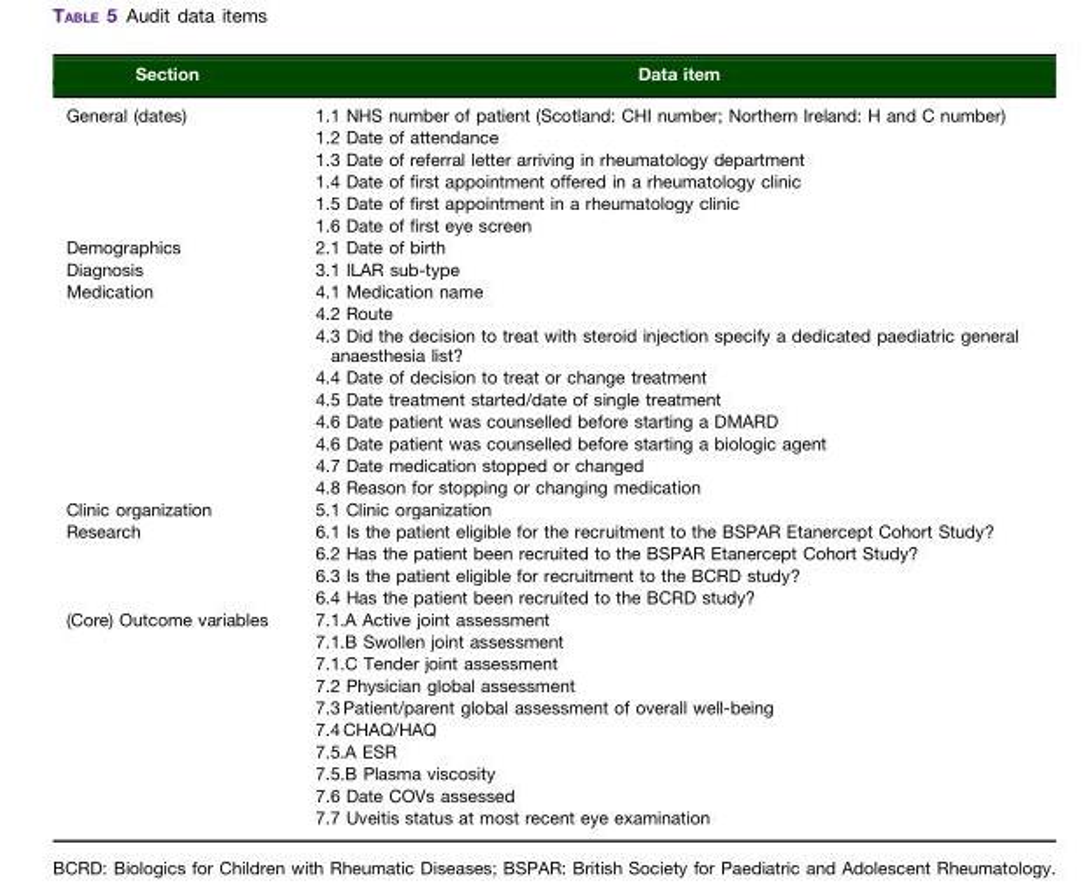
<table><thead><tr><td>Section</td><td>Data item</td></tr></thead><tbody><tr><td rowspan="6">General (dates)</td><td>1.1 NHS number of patient (Scotland: CHI number; Northern Ireland: H and C number)</td></tr><tr><td>1.2 Date of attendance</td></tr><tr><td>1.3 Date of referral letter arriving in rheumatology department</td></tr><tr><td>1.4 Date of first appointment offered in a rheumatology clinic</td></tr><tr><td>1.5 Date of first appointment in a rheumatology clinic</td></tr><tr><td>1.6 Date of first eye screen</td></tr><tr><td>Demographics</td><td>2.1 Date of birth</td></tr><tr><td>Diagnosis</td><td>3.1 ILAR sub-type</td></tr><tr><td rowspan="9">Medication</td><td>4.1 Medication name</td></tr><tr><td>4.2 Route</td></tr><tr><td>4.3 Did the decision to treat with steroid injection specify a dedicated paediatric general anaesthesia list?</td></tr><tr><td>4.4 Date of decision to treat or change treatment</td></tr><tr><td>4.5 Date treatment started/date of single treatment</td></tr><tr><td>4.6 Date patient was counselled before starting a DMARD</td></tr><tr><td>4.6 Date patient was counselled before starting a biologic agent</td></tr><tr><td>4.7 Date medication stopped or changed</td></tr><tr><td>4.8 Reason for stopping or changing medication</td></tr><tr><td>Clinic organization</td><td>5.1 Clinic organization</td></tr><tr><td rowspan="4">Research</td><td>6.1 Is the patient eligible for the recruitment to the BSPAR Etanercept Cohort Study?</td></tr><tr><td>6.2 Has the patient been recruited to the BSPAR Etanercept Cohort Study?</td></tr><tr><td>6.3 Is the patient eligible for recruitment to the BCRD study?</td></tr><tr><td>6.4 Has the patient been recruited to the BCRD study?</td></tr><tr><td rowspan="10">(Core) Outcome variables</td><td>7.1.A Active joint assessment</td></tr><tr><td>7.1.B Swollen joint assessment</td></tr><tr><td>7.1.C Tender joint assessment</td></tr><tr><td>7.2 Physician global assessment</td></tr><tr><td>7.3 Patient/parent global assessment of overall well-being</td></tr><tr><td>7.4 CHAQ/HAQ</td></tr><tr><td>7.5.A ESR</td></tr><tr><td>7.5.B Plasma viscosity</td></tr><tr><td>7.6 Date COVs assessed</td></tr><tr><td>7.7 Uveitis status at most recent eye examination</td></tr></tbody></table>